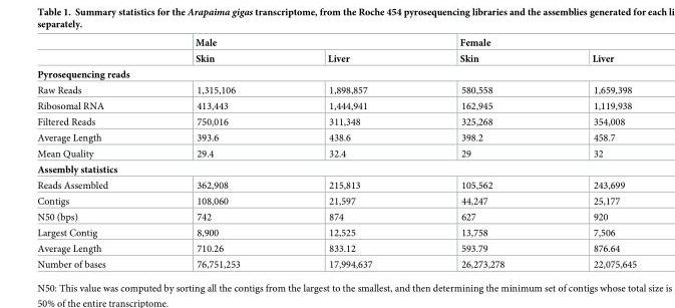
<table><thead><tr><td rowspan="2"></td><td colspan="2">Male</td><td colspan="2">Female</td></tr><tr><td>Skin</td><td>Liver</td><td>Skin</td><td>Liver</td></tr></thead><tbody><tr><td colspan="5">Pyrosequencing reads</td></tr><tr><td>Raw Reads</td><td>1,315,106</td><td>1,898,857</td><td>580,558</td><td>1,659,398</td></tr><tr><td>Ribosomal RNA</td><td>413,443</td><td>1,444,941</td><td>162,945</td><td>1,119,938</td></tr><tr><td>Filtered Reads</td><td>750,016</td><td>311,348</td><td>325,268</td><td>354,008</td></tr><tr><td>Average Length</td><td>393.6</td><td>438.6</td><td>398.2</td><td>458.7</td></tr><tr><td>Mean Quality</td><td>29.4</td><td>32.4</td><td>29</td><td>32</td></tr><tr><td colspan="5">Assembly statistics</td></tr><tr><td>Reads Assembled</td><td>362,908</td><td>215,813</td><td>105,562</td><td>243,699</td></tr><tr><td>Contigs</td><td>108,060</td><td>21,597</td><td>44,247</td><td>25,177</td></tr><tr><td>N50 (bps)</td><td>742</td><td>874</td><td>627</td><td>920</td></tr><tr><td>Largest Contig</td><td>8,900</td><td>12,525</td><td>13,758</td><td>7,506</td></tr><tr><td>Average Length</td><td>710.26</td><td>833.12</td><td>593.79</td><td>876.64</td></tr><tr><td>Number of bases</td><td>76,751,253</td><td>17,994,637</td><td>26,273,278</td><td>22,075,645</td></tr></tbody></table>